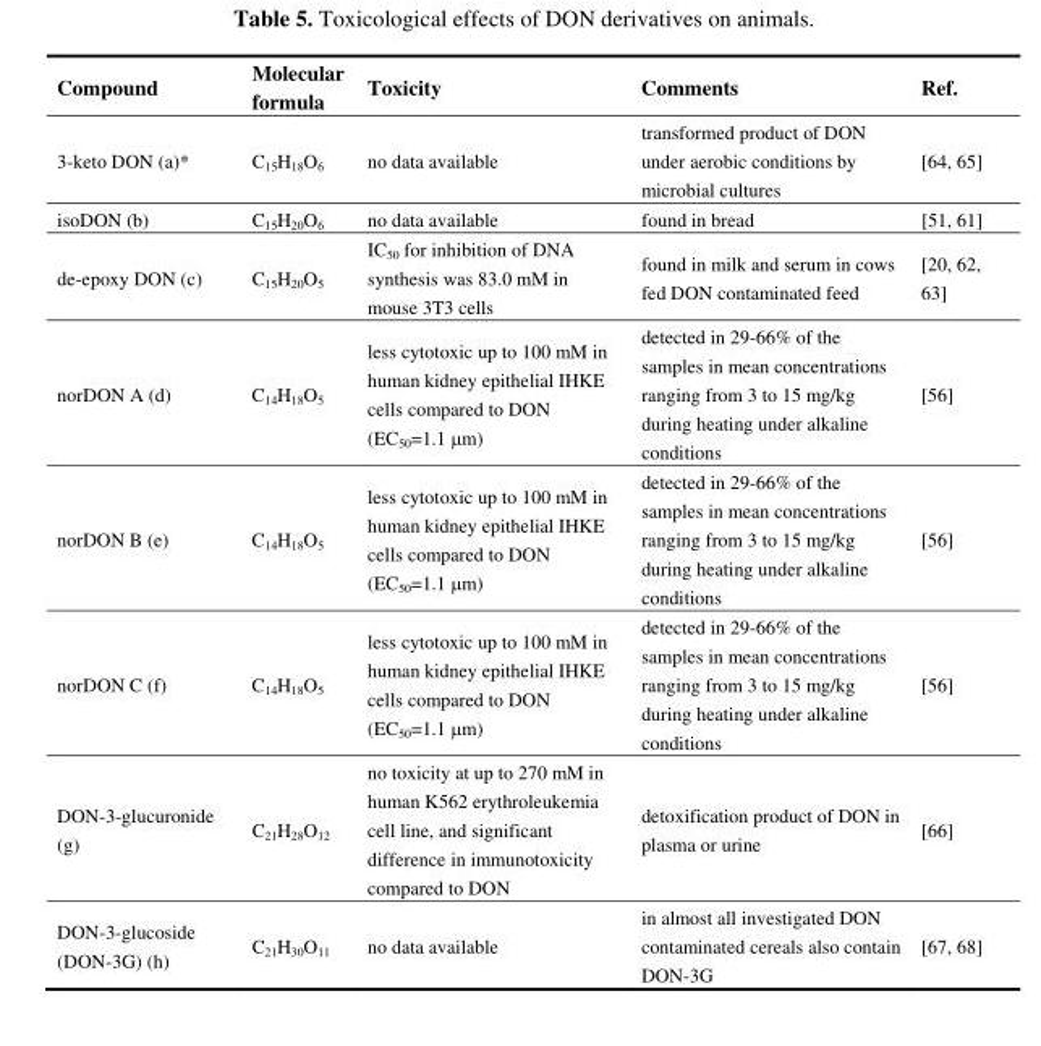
<table><thead><tr><td>Compound</td><td>Molecular formula</td><td>Toxicity</td><td>Comments</td><td>Ref.</td></tr></thead><tbody><tr><td>3-keto DON (a)*</td><td>C<sub>15</sub>H<sub>18</sub>O<sub>6</sub></td><td>no data available</td><td>transformed product of DON under aerobic conditions by microbial cultures</td><td>[64, 65]</td></tr><tr><td>isoDON (b)</td><td>C<sub>15</sub>H<sub>20</sub>O<sub>6</sub></td><td>no data available</td><td>found in bread</td><td>[51, 61]</td></tr><tr><td>de-epoxy DON (c)</td><td>C<sub>15</sub>H<sub>20</sub>O<sub>5</sub></td><td>IC<sub>50</sub> for inhibition of DNA synthesis was 83.0 mM in mouse 3T3 cells</td><td>found in milk and serum in cows fed DON contaminated feed</td><td>[20, 62, 63]</td></tr><tr><td>norDON A (d)</td><td>C<sub>14</sub>H<sub>18</sub>O<sub>5</sub></td><td>less cytotoxic up to 100 mM in human kidney epithelial IHKE cells compared to DON (EC<sub>50</sub>=1.1 μm)</td><td>detected in 29-66% of the samples in mean concentrations ranging from 3 to 15 mg/kg during heating under alkaline conditions</td><td>[56]</td></tr><tr><td>norDON B (e)</td><td>C<sub>14</sub>H<sub>18</sub>O<sub>5</sub></td><td>less cytotoxic up to 100 mM in human kidney epithelial IHKE cells compared to DON (EC<sub>50</sub>=1.1 μm)</td><td>detected in 29-66% of the samples in mean concentrations ranging from 3 to 15 mg/kg during heating under alkaline conditions</td><td>[56]</td></tr><tr><td>norDON C (f)</td><td>C<sub>14</sub>H<sub>18</sub>O<sub>5</sub></td><td>less cytotoxic up to 100 mM in human kidney epithelial IHKE cells compared to DON (EC<sub>50</sub>=1.1 μm)</td><td>detected in 29-66% of the samples in mean concentrations ranging from 3 to 15 mg/kg during heating under alkaline conditions</td><td>[56]</td></tr><tr><td>DON-3-glucuronide (g)</td><td>C<sub>21</sub>H<sub>28</sub>O<sub>12</sub></td><td>no toxicity at up to 270 mM in human K562 erythroleukemia cell line, and significant difference in immunotoxicity compared to DON</td><td>detoxification product of DON in plasma or urine</td><td>[66]</td></tr><tr><td>DON-3-glucoside (DON-3G) (h)</td><td>C<sub>21</sub>H<sub>30</sub>O<sub>11</sub></td><td>no data available</td><td>in almost all investigated DON contaminated cereals also contain DON-3G</td><td>[67, 68]</td></tr></tbody></table>